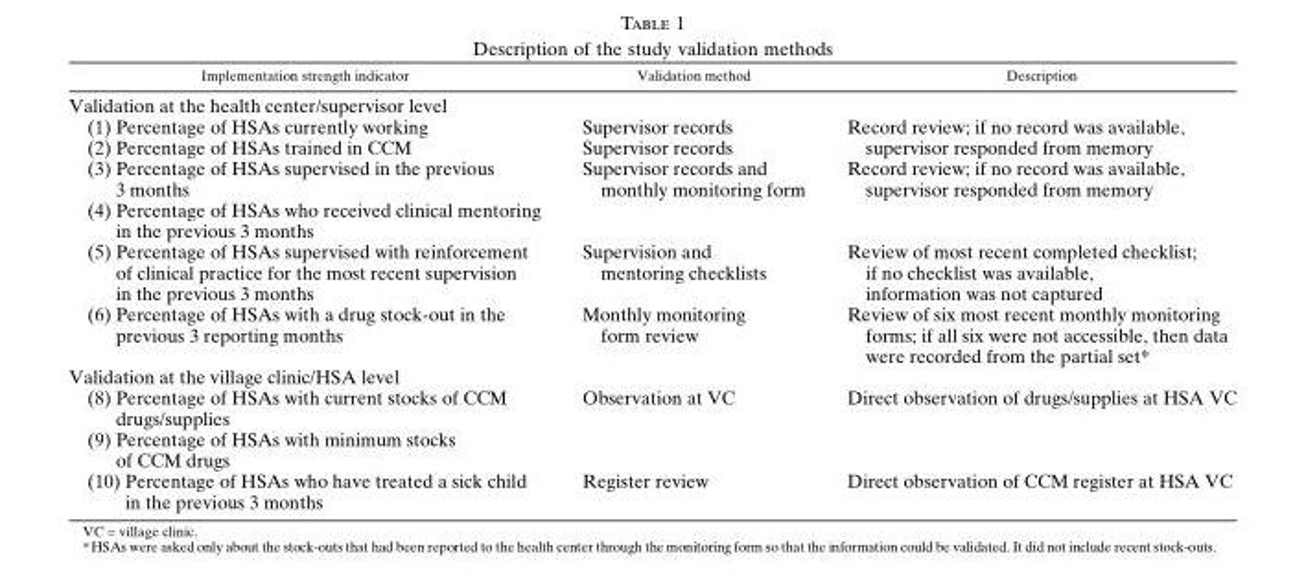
<table><thead><tr><td>Implementation strength indicator</td><td>Validation method</td><td>Description</td></tr></thead><tbody><tr><td colspan="3">Validation at the health center/supervisor level</td></tr><tr><td>(1) Percentage of HSAs currently working</td><td>Supervisor records</td><td rowspan="2">Record review; if no record was available, supervisor responded from memory</td></tr><tr><td>(2) Percentage of HSAs trained in CCM</td><td>Supervisor records</td></tr><tr><td>(3) Percentage of HSAs supervised in the previous 3 months</td><td rowspan="2">Supervisor records and monthly monitoring form</td><td rowspan="2">Record review; if no record was available, supervisor responded from memory</td></tr><tr><td>(4) Percentage of HSAs who received clinical mentoring in the previous 3 months</td></tr><tr><td>(5) Percentage of HSAs supervised with reinforcement of clinical practice for the most recent supervision in the previous 3 months</td><td>Supervision and mentoring checklists</td><td>Review of most recent completed checklist; if no checklist was available, information was not captured</td></tr><tr><td>(6) Percentage of HSAs with a drug stock-out in the previous 3 reporting months</td><td>Monthly monitoring form review</td><td>Review of six most recent monthly monitoring forms; if all six were not accessible, then data were recorded from the partial set*</td></tr><tr><td colspan="3">Validation at the village clinic/HSA level</td></tr><tr><td>(8) Percentage of HSAs with current stocks of CCM drugs/supplies</td><td rowspan="2">Observation at VC</td><td rowspan="2">Direct observation of drugs/supplies at HSA VC</td></tr><tr><td>(9) Percentage of HSAs with minimum stocks of CCM drugs</td></tr><tr><td>(10) Percentage of HSAs who have treated a sick child in the previous 3 months</td><td>Register review</td><td>Direct observation of CCM register at HSA VC</td></tr></tbody></table>